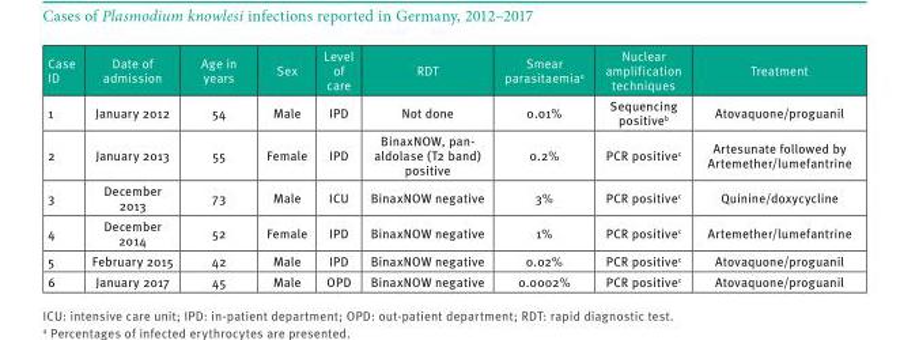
<table><thead><tr><td>Case ID</td><td>Date of admission</td><td>Age in years</td><td>Sex</td><td>Level of care</td><td>RDT</td><td>Smear parasitaemia<sup>a</sup></td><td>Nuclear amplification techniques</td><td>Treatment</td></tr></thead><tbody><tr><td>1</td><td>January 2012</td><td>54</td><td>Male</td><td>IPD</td><td>Not done</td><td>0.01%</td><td>Sequencing positive<sup>b</sup></td><td>Atovaquone/proguanil</td></tr><tr><td>2</td><td>January 2013</td><td>55</td><td>Female</td><td>IPD</td><td>BinaxNOW, pan- aldolase (T2 band) positive</td><td>0.2%</td><td>PCR positive<sup>c</sup></td><td>Artesunate followed by Artemether/lumefantrine</td></tr><tr><td>3</td><td>December 2013</td><td>73</td><td>Male</td><td>ICU</td><td>BinaxNOW negative</td><td>3%</td><td>PCR positive<sup>c</sup></td><td>Quinine/doxycycline</td></tr><tr><td>4</td><td>December 2014</td><td>52</td><td>Female</td><td>IPD</td><td>BinaxNOW negative</td><td>1%</td><td>PCR positive<sup>c</sup></td><td>Artemether/lumefantrine</td></tr><tr><td>5</td><td>February 2015</td><td>42</td><td>Male</td><td>IPD</td><td>BinaxNOW negative</td><td>0.02%</td><td>PCR positive<sup>c</sup></td><td>Atovaquone/proguanil</td></tr><tr><td>6</td><td>January 2017</td><td>45</td><td>Male</td><td>OPD</td><td>BinaxNOW negative</td><td>0.0002%</td><td>PCR positive<sup>c</sup></td><td>Atovaquone/proguanil</td></tr></tbody></table>